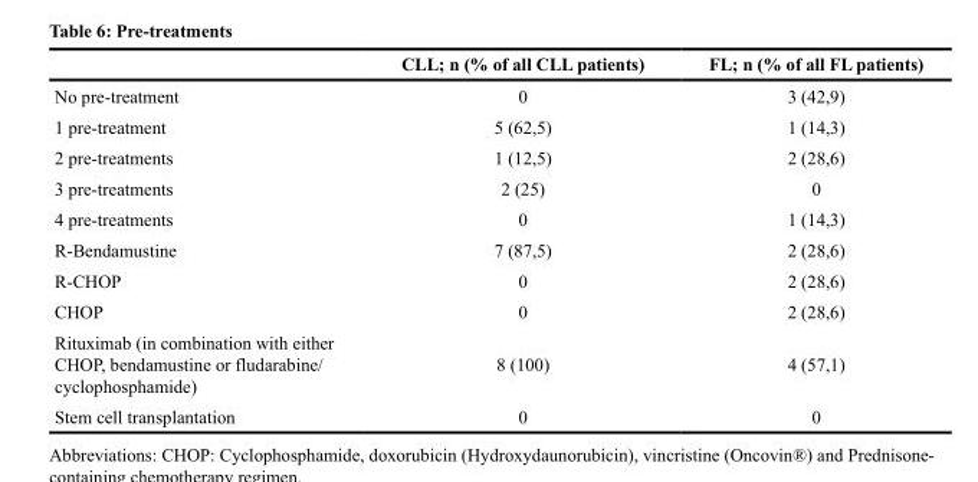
<table><thead><tr><td></td><td>CLL; n (% of all CLL patients)</td><td>FL; n (% of all FL patients)</td></tr></thead><tbody><tr><td>No pre-treatment</td><td>0</td><td>3 (42,9)</td></tr><tr><td>1 pre-treatment</td><td>5 (62,5)</td><td>1 (14,3)</td></tr><tr><td>2 pre-treatments</td><td>1 (12,5)</td><td>2 (28,6)</td></tr><tr><td>3 pre-treatments</td><td>2 (25)</td><td>0</td></tr><tr><td>4 pre-treatments</td><td>0</td><td>1 (14,3)</td></tr><tr><td>R-Bendamustine</td><td>7 (87,5)</td><td>2 (28,6)</td></tr><tr><td>R-CHOP</td><td>0</td><td>2 (28,6)</td></tr><tr><td>CHOP</td><td>0</td><td>2 (28,6)</td></tr><tr><td>Rituximab (in combination with either CHOP, bendamustine or fludarabine/ cyclophosphamide)</td><td>8 (100)</td><td>4 (57,1)</td></tr><tr><td>Stem cell transplantation</td><td>0</td><td>0</td></tr></tbody></table>